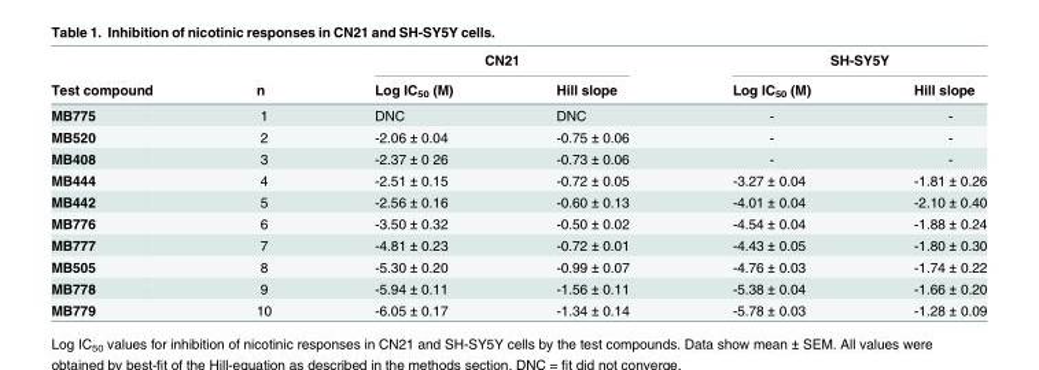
<table><thead><tr><td rowspan="2">Test compound</td><td rowspan="2">n</td><td colspan="2">CN21</td><td colspan="2">SH-SY5Y</td></tr><tr><td>Log IC<sub>50</sub> (M)</td><td>Hill slope</td><td>Log IC<sub>50</sub> (M)</td><td>Hill slope</td></tr></thead><tbody><tr><td>MB775</td><td>1</td><td>DNC</td><td>DNC</td><td>-</td><td>-</td></tr><tr><td>MB520</td><td>2</td><td>-2.06 ± 0.04</td><td>-0.75 ± 0.06</td><td>-</td><td>-</td></tr><tr><td>MB408</td><td>3</td><td>-2.37 ± 0 26</td><td>-0.73 ± 0.06</td><td>-</td><td>-</td></tr><tr><td>MB444</td><td>4</td><td>-2.51 ± 0.15</td><td>-0.72 ± 0.05</td><td>-3.27 ± 0.04</td><td>-1.81 ± 0.26</td></tr><tr><td>MB442</td><td>5</td><td>-2.56 ± 0.16</td><td>-0.60 ± 0.13</td><td>-4.01 ± 0.04</td><td>-2.10 ± 0.40</td></tr><tr><td>MB776</td><td>6</td><td>-3.50 ± 0.32</td><td>-0.50 ± 0.02</td><td>-4.54 ± 0.04</td><td>-1.88 ± 0.24</td></tr><tr><td>MB777</td><td>7</td><td>-4.81 ± 0.23</td><td>-0.72 ± 0.01</td><td>-4.43 ± 0.05</td><td>-1.80 ± 0.30</td></tr><tr><td>MB505</td><td>8</td><td>-5.30 ± 0.20</td><td>-0.99 ± 0.07</td><td>-4.76 ± 0.03</td><td>-1.74 ± 0.22</td></tr><tr><td>MB778</td><td>9</td><td>-5.94 ± 0.11</td><td>-1.56 ± 0.11</td><td>-5.38 ± 0.04</td><td>-1.66 ± 0.20</td></tr><tr><td>MB779</td><td>10</td><td>-6.05 ± 0.17</td><td>-1.34 ± 0.14</td><td>-5.78 ± 0.03</td><td>-1.28 ± 0.09</td></tr></tbody></table>